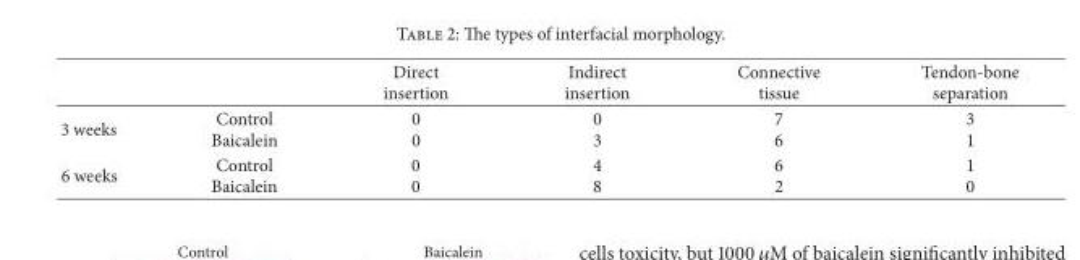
<table><thead><tr><td></td><td></td><td>Direct insertion</td><td>Indirect insertion</td><td>Connective tissue</td><td>Tendon-bone separation</td></tr></thead><tbody><tr><td>3 weeks</td><td>Control Baicalein</td><td>0 0</td><td>0 3</td><td>7 6</td><td>3 1</td></tr><tr><td>6 weeks</td><td>Control Baicalein</td><td>0 0</td><td>4 8</td><td>6 2</td><td>1 0</td></tr></tbody></table>